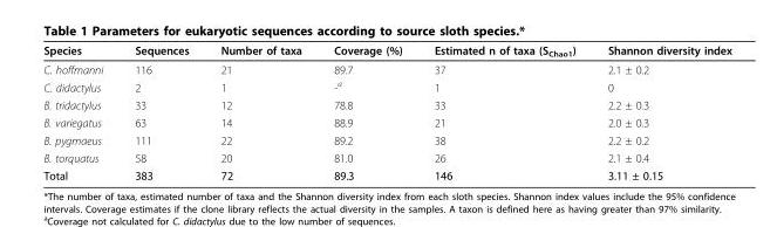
<table><thead><tr><td>Species</td><td>Sequences</td><td>Number of taxa</td><td>Coverage (%)</td><td>Estimated n of taxa (S<sub>Chao1</sub>)</td><td>Shannon diversity index</td></tr></thead><tbody><tr><td>C. hoffmanni</td><td>116</td><td>21</td><td>89.7</td><td>37</td><td>2.1 ± 0.2</td></tr><tr><td>C. didactylus</td><td>2</td><td>1</td><td>-<sup>a</sup></td><td>1</td><td>0</td></tr><tr><td>B. tridactylus</td><td>33</td><td>12</td><td>78.8</td><td>33</td><td>2.2 ± 0.3</td></tr><tr><td>B. variegatus</td><td>63</td><td>14</td><td>88.9</td><td>21</td><td>2.0 ± 0.3</td></tr><tr><td>B. pygmaeus</td><td>111</td><td>22</td><td>89.2</td><td>38</td><td>2.2 ± 0.2</td></tr><tr><td>B. torquatus</td><td>58</td><td>20</td><td>81.0</td><td>26</td><td>2.1 ± 0.4</td></tr><tr><td>Total</td><td>383</td><td>72</td><td>89.3</td><td>146</td><td>3.11 ± 0.15</td></tr></tbody></table>